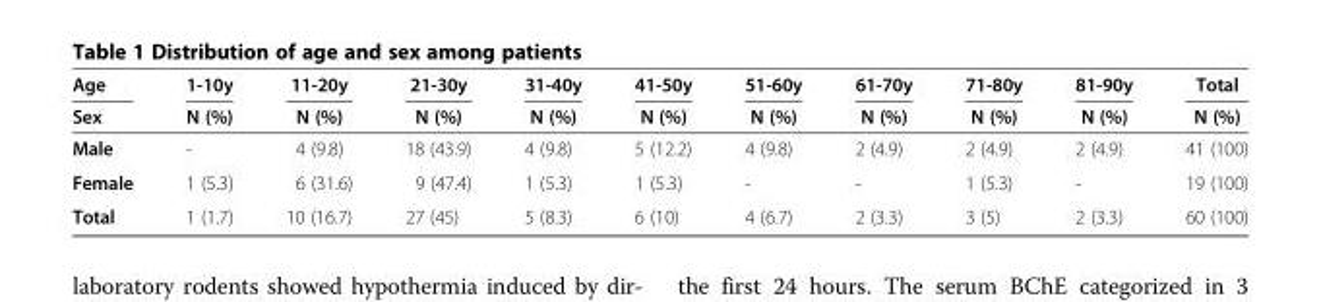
<table><thead><tr><td rowspan="2">Age Sex</td><td rowspan="2">1-10y N (%)</td><td rowspan="2">11-20y N (%)</td><td rowspan="2">21-30y N (%)</td><td rowspan="2">31-40y N (%)</td><td rowspan="2">41-50y N (%)</td><td rowspan="2">51-60y N (%)</td><td rowspan="2">61-70y N (%)</td><td rowspan="2">71-80y N (%)</td><td rowspan="2">81-90y N (%)</td><td rowspan="2">Total N (%)</td></tr><tr></tr></thead><tbody><tr><td>Male</td><td>-</td><td>4 (9.8)</td><td>18 (43.9)</td><td>4 (9.8)</td><td>5 (12.2)</td><td>4 (9.8)</td><td>2 (4.9)</td><td>2 (4.9)</td><td>2 (4.9)</td><td>41 (100)</td></tr><tr><td>Female</td><td>1 (5.3)</td><td>6 (31.6)</td><td>9 (47.4)</td><td>1 (5.3)</td><td>1 (5.3)</td><td>-</td><td>-</td><td>1 (5.3)</td><td>-</td><td>19 (100)</td></tr><tr><td>Total</td><td>1 (1.7)</td><td>10 (16.7)</td><td>27 (45)</td><td>5 (8.3)</td><td>6 (10)</td><td>4 (6.7)</td><td>2 (3.3)</td><td>3 (5)</td><td>2 (3.3)</td><td>60 (100)</td></tr></tbody></table>